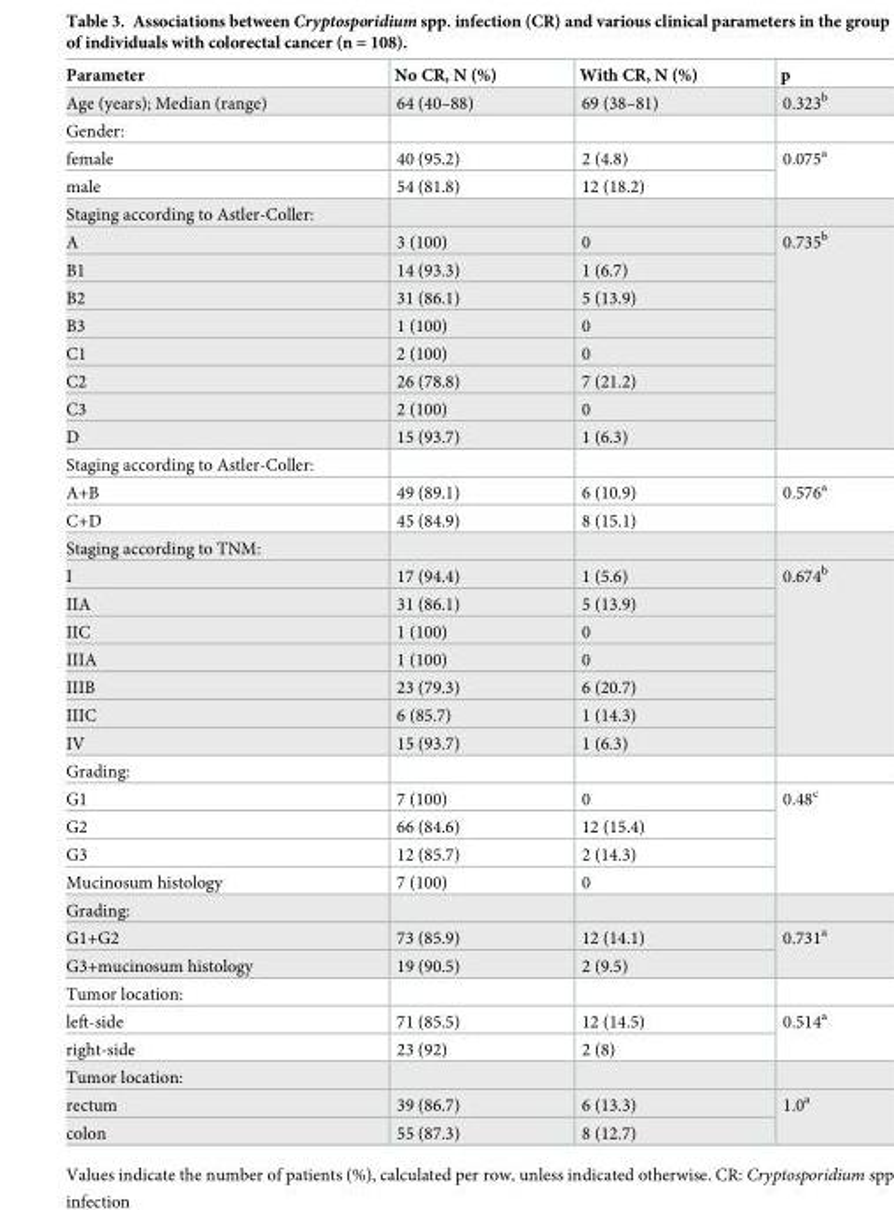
<table><thead><tr><td>Parameter</td><td>No CR, N (%)</td><td>With CR, N (%)</td><td>p</td></tr></thead><tbody><tr><td>Age (years); Median (range)</td><td>64 (40–88)</td><td>69 (38–81)</td><td>0.323<sup>b</sup></td></tr><tr><td colspan="4">Gender:</td></tr><tr><td>female</td><td>40 (95.2)</td><td>2 (4.8)</td><td rowspan="2">0.075<sup>a</sup></td></tr><tr><td>male</td><td>54 (81.8)</td><td>12 (18.2)</td></tr><tr><td colspan="4">Staging according to Astler-Coller:</td></tr><tr><td>A</td><td>3 (100)</td><td>0</td><td rowspan="8">0.735<sup>b</sup></td></tr><tr><td>B1</td><td>14 (93.3)</td><td>1 (6.7)</td></tr><tr><td>B2</td><td>31 (86.1)</td><td>5 (13.9)</td></tr><tr><td>B3</td><td>1 (100)</td><td>0</td></tr><tr><td>C1</td><td>2 (100)</td><td>0</td></tr><tr><td>C2</td><td>26 (78.8)</td><td>7 (21.2)</td></tr><tr><td>C3</td><td>2 (100)</td><td>0</td></tr><tr><td>D</td><td>15 (93.7)</td><td>1 (6.3)</td></tr><tr><td colspan="4">Staging according to Astler-Coller:</td></tr><tr><td>A+B</td><td>49 (89.1)</td><td>6 (10.9)</td><td rowspan="2">0.576<sup>a</sup></td></tr><tr><td>C+D</td><td>45 (84.9)</td><td>8 (15.1)</td></tr><tr><td colspan="4">Staging according to TNM:</td></tr><tr><td>I</td><td>17 (94.4)</td><td>1 (5.6)</td><td rowspan="7">0.674<sup>b</sup></td></tr><tr><td>IIA</td><td>31 (86.1)</td><td>5 (13.9)</td></tr><tr><td>IIC</td><td>1 (100)</td><td>0</td></tr><tr><td>IIIA</td><td>1 (100)</td><td>0</td></tr><tr><td>IIIB</td><td>23 (79.3)</td><td>6 (20.7)</td></tr><tr><td>IIIC</td><td>6 (85.7)</td><td>1 (14.3)</td></tr><tr><td>IV</td><td>15 (93.7)</td><td>1 (6.3)</td></tr><tr><td colspan="4">Grading:</td></tr><tr><td>G1</td><td>7 (100)</td><td>0</td><td rowspan="4">0.48<sup>c</sup></td></tr><tr><td>G2</td><td>66 (84.6)</td><td>12 (15.4)</td></tr><tr><td>G3</td><td>12 (85.7)</td><td>2 (14.3)</td></tr><tr><td>Mucinosum histology</td><td>7 (100)</td><td>0</td></tr><tr><td colspan="4">Grading:</td></tr><tr><td>G1+G2</td><td>73 (85.9)</td><td>12 (14.1)</td><td rowspan="2">0.731<sup>a</sup></td></tr><tr><td>G3+mucinosum histology</td><td>19 (90.5)</td><td>2 (9.5)</td></tr><tr><td colspan="4">Tumor location:</td></tr><tr><td>left-side</td><td>71 (85.5)</td><td>12 (14.5)</td><td rowspan="2">0.514<sup>a</sup></td></tr><tr><td>right-side</td><td>23 (92)</td><td>2 (8)</td></tr><tr><td colspan="4">Tumor location:</td></tr><tr><td>rectum</td><td>39 (86.7)</td><td>6 (13.3)</td><td rowspan="2">1.0<sup>a</sup></td></tr><tr><td>colon</td><td>55 (87.3)</td><td>8 (12.7)</td></tr></tbody></table>